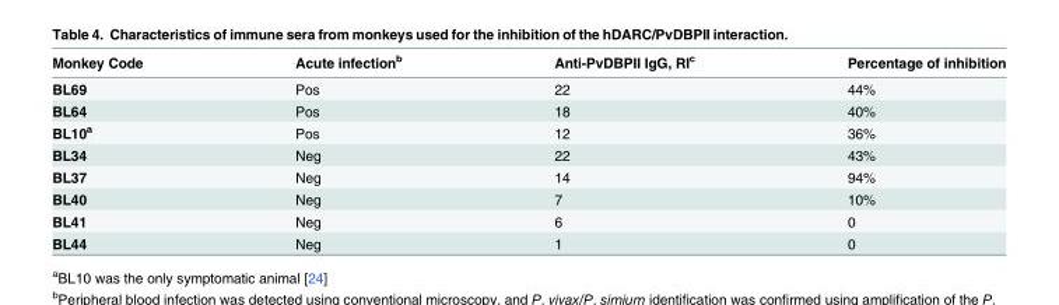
<table><thead><tr><td>Monkey Code</td><td>Acute infection<sup>b</sup></td><td>Anti-PvDBPII IgG, RI<sup>c</sup></td><td>Percentage of inhibition</td></tr></thead><tbody><tr><td>BL69</td><td>Pos</td><td>22</td><td>44%</td></tr><tr><td>BL64</td><td>Pos</td><td>18</td><td>40%</td></tr><tr><td>BL10<sup>a</sup></td><td>Pos</td><td>12</td><td>36%</td></tr><tr><td>BL34</td><td>Neg</td><td>22</td><td>43%</td></tr><tr><td>BL37</td><td>Neg</td><td>14</td><td>94%</td></tr><tr><td>BL40</td><td>Neg</td><td>7</td><td>10%</td></tr><tr><td>BL41</td><td>Neg</td><td>6</td><td>0</td></tr><tr><td>BL44</td><td>Neg</td><td>1</td><td>0</td></tr></tbody></table>